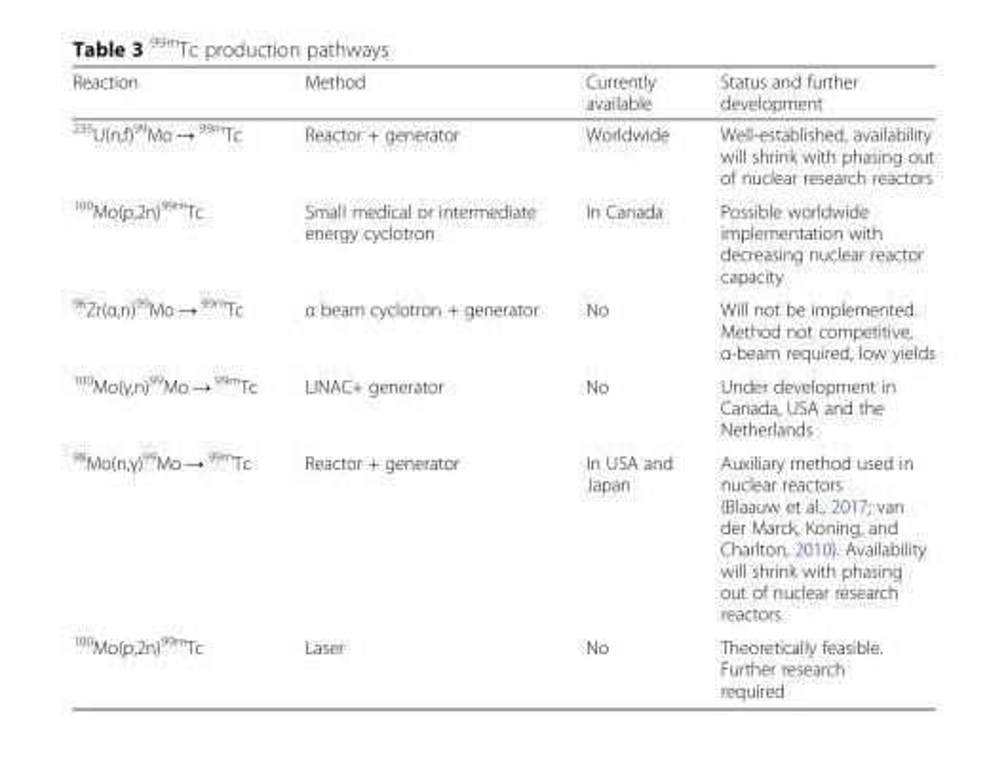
<table><thead><tr><td>Reaction</td><td>Method</td><td>Currently available</td><td>Status and further development</td></tr></thead><tbody><tr><td><sup>235</sup>U(n,f)<sup>99</sup>Mo → <sup>99m</sup>Tc</td><td>Reactor + generator</td><td>Worldwide</td><td>Well-established, availability will shrink with phasing out of nuclear research reactors</td></tr><tr><td><sup>100</sup>Mo(p,2n)<sup>99m</sup>Tc</td><td>Small medical or intermediate energy cyclotron</td><td>In Canada</td><td>Possible worldwide implementation with decreasing nuclear reactor capacity</td></tr><tr><td><sup>96</sup>Zr(α,n)<sup>99</sup>Mo → <sup>99m</sup>Tc</td><td>α beam cyclotron + generator</td><td>No</td><td>Will not be implemented. Method not competitive, α-beam required, low yields</td></tr><tr><td><sup>100</sup>Mo(γ,n)<sup>99</sup>Mo → <sup>99m</sup>Tc</td><td>LINAC+ generator</td><td>No</td><td>Under development in Canada, USA and the Netherlands</td></tr><tr><td><sup>98</sup>Mo(n,γ)<sup>99</sup>Mo → <sup>99m</sup>Tc</td><td>Reactor + generator</td><td>In USA and Japan</td><td>Auxiliary method used in nuclear reactors (Blaauw et al., 2017; van der Marck, Koning, and Charlton, 2010). Availability will shrink with phasing out of nuclear research reactors</td></tr><tr><td><sup>100</sup>Mo(p,2n)<sup>99m</sup>Tc</td><td>Laser</td><td>No</td><td>Theoretically feasible. Further research required</td></tr></tbody></table>